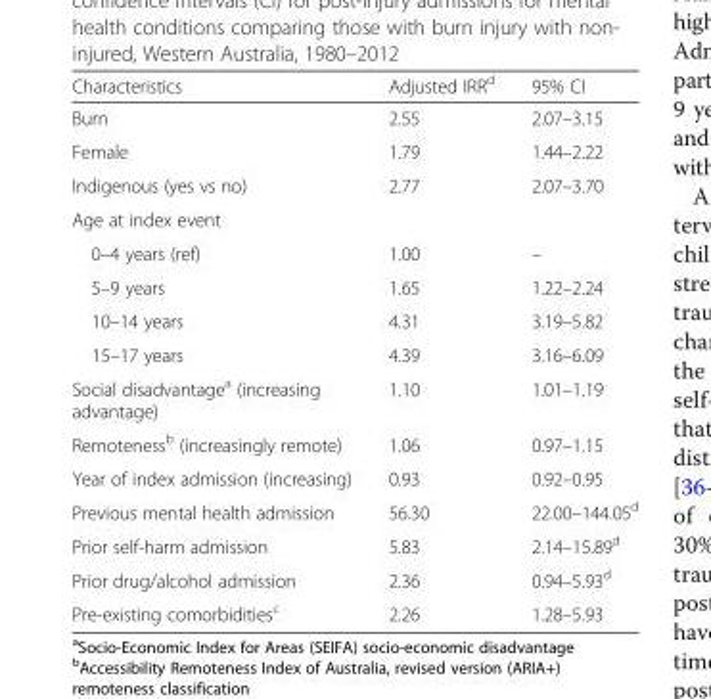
<table><thead><tr><td>Characteristics</td><td>Adjusted IRR<sup>d</sup></td><td>95% CI</td></tr></thead><tbody><tr><td>Burn</td><td>2.55</td><td>2.07–3.15</td></tr><tr><td>Female</td><td>1.79</td><td>1.44–2.22</td></tr><tr><td>Indigenous (yes vs no)</td><td>2.77</td><td>2.07–3.70</td></tr><tr><td colspan="3">Age at index event</td></tr><tr><td>0–4 years (ref)</td><td>1.00</td><td>–</td></tr><tr><td>5–9 years</td><td>1.65</td><td>1.22–2.24</td></tr><tr><td>10–14 years</td><td>4.31</td><td>3.19–5.82</td></tr><tr><td>15–17 years</td><td>4.39</td><td>3.16–6.09</td></tr><tr><td>Social disadvantage<sup>a</sup> (increasing advantage)</td><td>1.10</td><td>1.01–1.19</td></tr><tr><td>Remoteness<sup>b</sup> (increasingly remote)</td><td>1.06</td><td>0.97–1.15</td></tr><tr><td>Year of index admission (increasing)</td><td>0.93</td><td>0.92–0.95</td></tr><tr><td>Previous mental health admission</td><td>56.30</td><td>22.00–144.05<sup>d</sup></td></tr><tr><td>Prior self-harm admission</td><td>5.83</td><td>2.14–15.89<sup>d</sup></td></tr><tr><td>Prior drug/alcohol admission</td><td>2.36</td><td>0.94–5.93<sup>d</sup></td></tr><tr><td>Pre-existing comorbidities<sup>c</sup></td><td>2.26</td><td>1.28–5.93</td></tr></tbody></table>